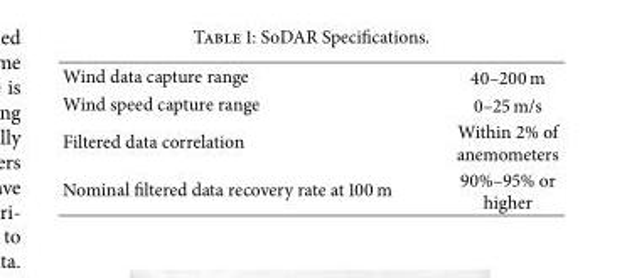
<table><tbody><tr><td>Wind data capture range</td><td>40–200 m</td></tr><tr><td>Wind speed capture range</td><td>0–25 m/s</td></tr><tr><td>Filtered data correlation</td><td>Within 2% of anemometers</td></tr><tr><td>Nominal filtered data recovery rate at 100 m</td><td>90%–95% or higher</td></tr></tbody></table>